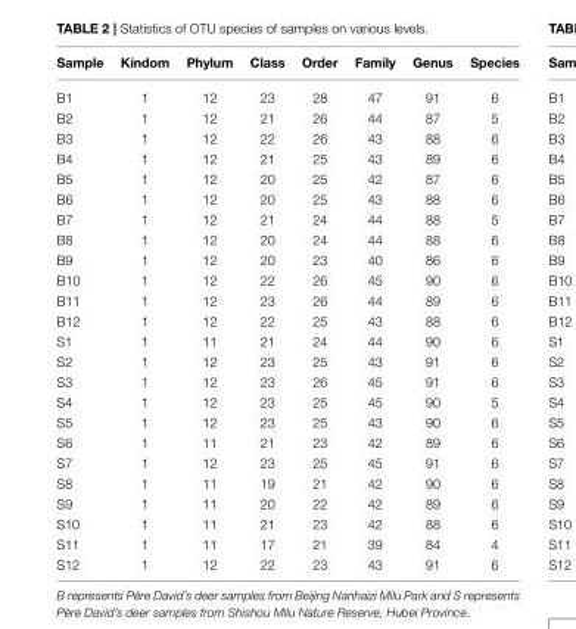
<table><thead><tr><td>Sample</td><td>Kindom</td><td>Phylum</td><td>Class</td><td>Order</td><td>Family</td><td>Genus</td><td>Species</td></tr></thead><tbody><tr><td>B1</td><td>1</td><td>12</td><td>23</td><td>28</td><td>47</td><td>91</td><td>6</td></tr><tr><td>B2</td><td>1</td><td>12</td><td>21</td><td>26</td><td>44</td><td>87</td><td>5</td></tr><tr><td>B3</td><td>1</td><td>12</td><td>22</td><td>26</td><td>43</td><td>88</td><td>6</td></tr><tr><td>B4</td><td>1</td><td>12</td><td>21</td><td>25</td><td>43</td><td>89</td><td>6</td></tr><tr><td>B5</td><td>1</td><td>12</td><td>20</td><td>25</td><td>42</td><td>87</td><td>6</td></tr><tr><td>B6</td><td>1</td><td>12</td><td>20</td><td>25</td><td>43</td><td>88</td><td>6</td></tr><tr><td>B7</td><td>1</td><td>12</td><td>21</td><td>24</td><td>44</td><td>88</td><td>5</td></tr><tr><td>B8</td><td>1</td><td>12</td><td>20</td><td>24</td><td>44</td><td>88</td><td>6</td></tr><tr><td>B9</td><td>1</td><td>12</td><td>20</td><td>23</td><td>40</td><td>86</td><td>6</td></tr><tr><td>B10</td><td>1</td><td>12</td><td>22</td><td>26</td><td>45</td><td>90</td><td>6</td></tr><tr><td>B11</td><td>1</td><td>12</td><td>23</td><td>26</td><td>44</td><td>89</td><td>6</td></tr><tr><td>B12</td><td>1</td><td>12</td><td>22</td><td>25</td><td>43</td><td>88</td><td>6</td></tr><tr><td>S1</td><td>1</td><td>11</td><td>21</td><td>24</td><td>44</td><td>90</td><td>6</td></tr><tr><td>S2</td><td>1</td><td>12</td><td>23</td><td>25</td><td>43</td><td>91</td><td>6</td></tr><tr><td>S3</td><td>1</td><td>12</td><td>23</td><td>26</td><td>45</td><td>91</td><td>6</td></tr><tr><td>S4</td><td>1</td><td>12</td><td>23</td><td>25</td><td>45</td><td>90</td><td>5</td></tr><tr><td>S5</td><td>1</td><td>12</td><td>23</td><td>25</td><td>43</td><td>90</td><td>6</td></tr><tr><td>S6</td><td>1</td><td>11</td><td>21</td><td>23</td><td>42</td><td>89</td><td>6</td></tr><tr><td>S7</td><td>1</td><td>12</td><td>23</td><td>25</td><td>45</td><td>91</td><td>6</td></tr><tr><td>S8</td><td>1</td><td>11</td><td>19</td><td>21</td><td>42</td><td>90</td><td>6</td></tr><tr><td>S9</td><td>1</td><td>11</td><td>20</td><td>22</td><td>42</td><td>89</td><td>6</td></tr><tr><td>S10</td><td>1</td><td>11</td><td>21</td><td>23</td><td>42</td><td>88</td><td>6</td></tr><tr><td>S11</td><td>1</td><td>11</td><td>17</td><td>21</td><td>39</td><td>84</td><td>4</td></tr><tr><td>S12</td><td>1</td><td>12</td><td>22</td><td>23</td><td>43</td><td>91</td><td>6</td></tr></tbody></table>